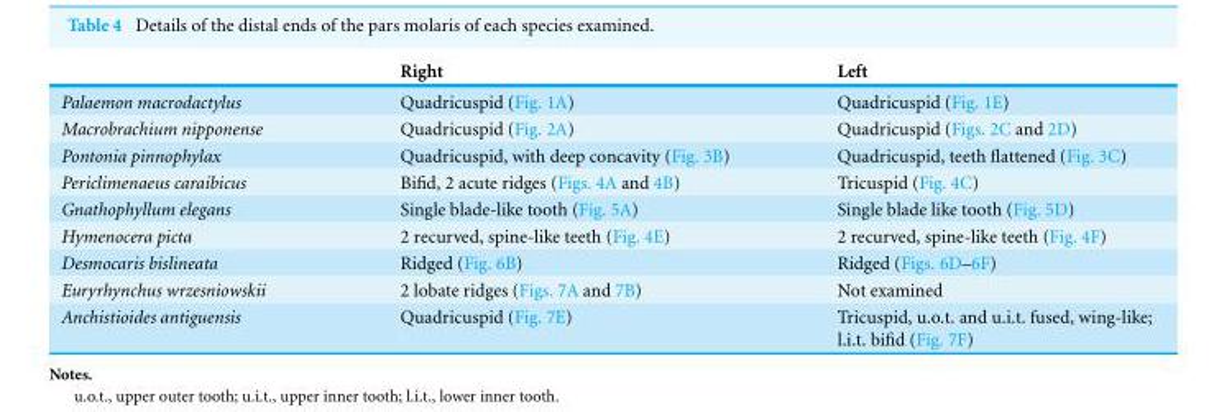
<table><thead><tr><td></td><td>Right</td><td>Left</td></tr></thead><tbody><tr><td>Palaemon macrodactylus</td><td>Quadricuspid (Fig. 1A)</td><td>Quadricuspid (Fig. 1E)</td></tr><tr><td>Macrobrachium nipponense</td><td>Quadricuspid (Fig. 2A)</td><td>Quadricuspid (Figs. 2C and 2D)</td></tr><tr><td>Pontonia pinnophylax</td><td>Quadricuspid, with deep concavity (Fig. 3B)</td><td>Quadricuspid, teeth flattened (Fig. 3C)</td></tr><tr><td>Periclimenaeus caraibicus</td><td>Bifid, 2 acute ridges (Figs. 4A and 4B)</td><td>Tricuspid (Fig. 4C)</td></tr><tr><td>Gnathophyllum elegans</td><td>Single blade-like tooth (Fig. 5A)</td><td>Single blade like tooth (Fig. 5D)</td></tr><tr><td>Hymenocera picta</td><td>2 recurved, spine-like teeth (Fig. 4E)</td><td>2 recurved, spine-like teeth (Fig. 4F)</td></tr><tr><td>Desmocaris bislineata</td><td>Ridged (Fig. 6B)</td><td>Ridged (Figs. 6D–6F)</td></tr><tr><td>Euryrhynchus wrzesniowskii</td><td>2 lobate ridges (Figs. 7A and 7B)</td><td>Not examined</td></tr><tr><td>Anchistioides antiguensis</td><td>Quadricuspid (Fig. 7E)</td><td>Tricuspid, u.o.t. and u.i.t. fused, wing-like; l.i.t. bifid (Fig. 7F)</td></tr></tbody></table>